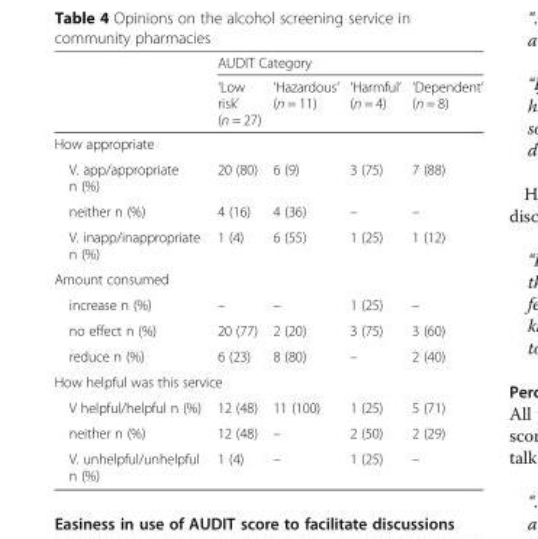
<table><thead><tr><td rowspan="2"></td><td colspan="4">AUDIT Category</td></tr><tr><td>‘Low risk’ (n = 27)</td><td>‘Hazardous’ (n = 11)</td><td>‘Harmful’ (n = 4)</td><td>‘Dependent’ (n = 8)</td></tr></thead><tbody><tr><td colspan="5">How appropriate</td></tr><tr><td>V. app/appropriate n (%)</td><td>20 (80)</td><td>6 (9)</td><td>3 (75)</td><td>7 (88)</td></tr><tr><td>neither n (%)</td><td>4 (16)</td><td>4 (36)</td><td>–</td><td>–</td></tr><tr><td>V. inapp/inappropriate n (%)</td><td>1 (4)</td><td>6 (55)</td><td>1 (25)</td><td>1 (12)</td></tr><tr><td colspan="5">Amount consumed</td></tr><tr><td>increase n (%)</td><td>–</td><td>–</td><td>1 (25)</td><td>–</td></tr><tr><td>no effect n (%)</td><td>20 (77)</td><td>2 (20)</td><td>3 (75)</td><td>3 (60)</td></tr><tr><td>reduce n (%)</td><td>6 (23)</td><td>8 (80)</td><td>–</td><td>2 (40)</td></tr><tr><td colspan="5">How helpful was this service</td></tr><tr><td>V helpful/helpful n (%)</td><td>12 (48)</td><td>11 (100)</td><td>1 (25)</td><td>5 (71)</td></tr><tr><td>neither n (%)</td><td>12 (48)</td><td>–</td><td>2 (50)</td><td>2 (29)</td></tr><tr><td>V. unhelpful/unhelpful n (%)</td><td>1 (4)</td><td>–</td><td>1 (25)</td><td>–</td></tr></tbody></table>